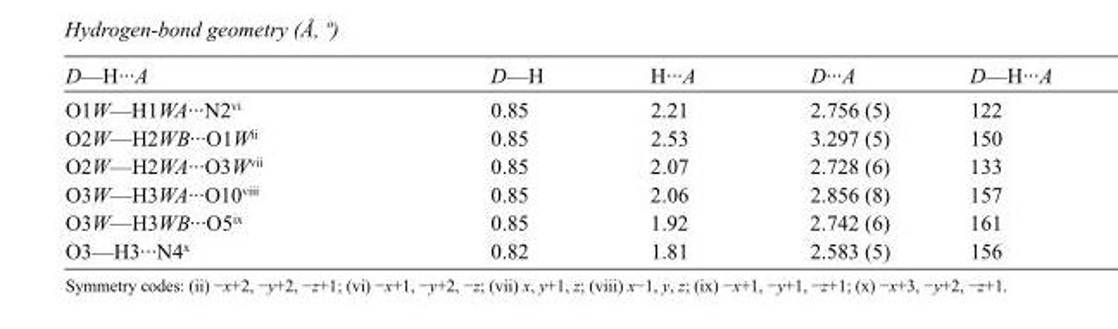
<table><tbody><tr><td>D—H···A</td><td>D—H</td><td>H···A</td><td>D···A</td><td>D—H···A</td></tr><tr><td>O1W—H1WA···N2<sup>vi</sup></td><td>0.85</td><td>2.21</td><td>2.756 (5)</td><td>122</td></tr><tr><td>O2W—H2WB···O1W<sup>ii</sup></td><td>0.85</td><td>2.53</td><td>3.297 (5)</td><td>150</td></tr><tr><td>O2W—H2WA···O3W<sup>vii</sup></td><td>0.85</td><td>2.07</td><td>2.728 (6)</td><td>133</td></tr><tr><td>O3W—H3WA···O10<sup>viii</sup></td><td>0.85</td><td>2.06</td><td>2.856 (8)</td><td>157</td></tr><tr><td>O3W—H3WB···O5<sup>ix</sup></td><td>0.85</td><td>1.92</td><td>2.742 (6)</td><td>161</td></tr><tr><td>O3—H3···N4<sup>x</sup></td><td>0.82</td><td>1.81</td><td>2.583 (5)</td><td>156</td></tr></tbody></table>